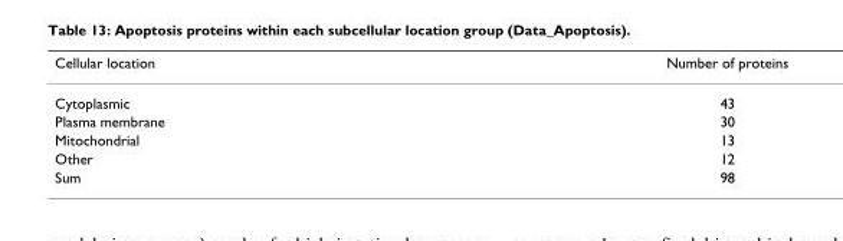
<table><thead><tr><td>Cellular location</td><td>Number of proteins</td></tr></thead><tbody><tr><td>Cytoplasmic</td><td>43</td></tr><tr><td>Plasma membrane</td><td>30</td></tr><tr><td>Mitochondrial</td><td>13</td></tr><tr><td>Other</td><td>12</td></tr><tr><td>Sum</td><td>98</td></tr></tbody></table>